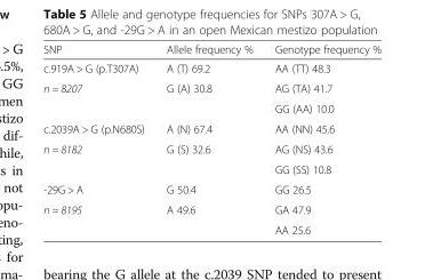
<table><thead><tr><td>SNP</td><td>Allele frequency %</td><td>Genotype frequency %</td></tr></thead><tbody><tr><td>c.919A &gt; G (p.T307A)</td><td>A (T) 69.2</td><td>AA (TT) 48.3</td></tr><tr><td rowspan="2">n = 8207</td><td>G (A) 30.8</td><td>AG (TA) 41.7</td></tr><tr><td></td><td>GG (AA) 10.0</td></tr><tr><td>c.2039A &gt; G (p.N680S)</td><td>A (N) 67.4</td><td>AA (NN) 45.6</td></tr><tr><td rowspan="2">n = 8182</td><td>G (S) 32.6</td><td>AG (NS) 43.6</td></tr><tr><td></td><td>GG (SS) 10.8</td></tr><tr><td>-29G &gt; A</td><td>G 50.4</td><td>GG 26.5</td></tr><tr><td rowspan="2">n = 8195</td><td>A 49.6</td><td>GA 47.9</td></tr><tr><td></td><td>AA 25.6</td></tr></tbody></table>